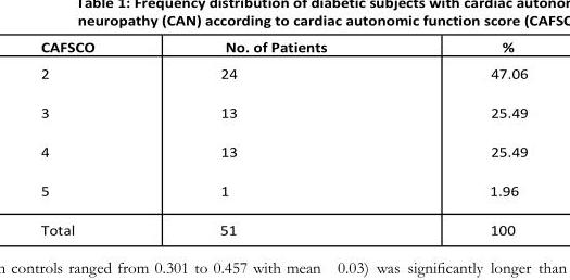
<table><thead><tr><td>CAFSCO</td><td>No. of Patients</td><td>%</td></tr></thead><tbody><tr><td>2</td><td>24</td><td>47.06</td></tr><tr><td>3</td><td>13</td><td>25.49</td></tr><tr><td>4</td><td>13</td><td>25.49</td></tr><tr><td>5</td><td>1</td><td>1.96</td></tr><tr><td>Total</td><td>51</td><td>100</td></tr></tbody></table>